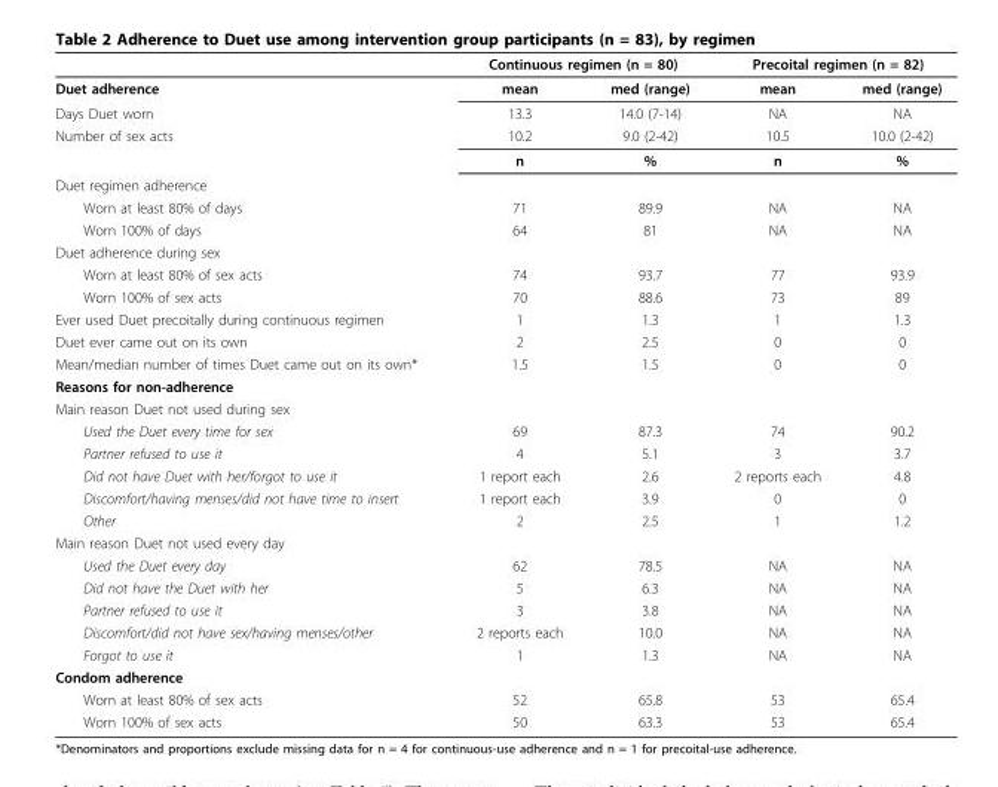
<table><thead><tr><td rowspan="2">Duet adherence</td><td colspan="2">Continuous regimen (n = 80)</td><td colspan="2">Precoital regimen (n = 82)</td></tr><tr><td>mean</td><td>med (range)</td><td>mean</td><td>med (range)</td></tr></thead><tbody><tr><td>Days Duet worn</td><td>13.3</td><td>14.0 (7-14)</td><td>NA</td><td>NA</td></tr><tr><td rowspan="2">Number of sex acts</td><td>10.2</td><td>9.0 (2-42)</td><td>10.5</td><td>10.0 (2-42)</td></tr><tr><td>n</td><td>%</td><td>n</td><td>%</td></tr><tr><td colspan="5">Duet regimen adherence</td></tr><tr><td>Worn at least 80% of days</td><td>71</td><td>89.9</td><td>NA</td><td>NA</td></tr><tr><td>Worn 100% of days</td><td>64</td><td>81</td><td>NA</td><td>NA</td></tr><tr><td colspan="5">Duet adherence during sex</td></tr><tr><td>Worn at least 80% of sex acts</td><td>74</td><td>93.7</td><td>77</td><td>93.9</td></tr><tr><td>Worn 100% of sex acts</td><td>70</td><td>88.6</td><td>73</td><td>89</td></tr><tr><td>Ever used Duet precoitally during continuous regimen</td><td>1</td><td>1.3</td><td>1</td><td>1.3</td></tr><tr><td>Duet ever came out on its own</td><td>2</td><td>2.5</td><td>0</td><td>0</td></tr><tr><td>Mean/median number of times Duet came out on its own*</td><td>1.5</td><td>1.5</td><td>0</td><td>0</td></tr><tr><td colspan="5">Reasons for non-adherence</td></tr><tr><td colspan="5">Main reason Duet not used during sex</td></tr><tr><td>Used the Duet every time for sex</td><td>69</td><td>87.3</td><td>74</td><td>90.2</td></tr><tr><td>Partner refused to use it</td><td>4</td><td>5.1</td><td>3</td><td>3.7</td></tr><tr><td>Did not have Duet with her/forgot to use it</td><td>1 report each</td><td>2.6</td><td>2 reports each</td><td>4.8</td></tr><tr><td>Discomfort/having menses/did not have time to insert</td><td>1 report each</td><td>3.9</td><td>0</td><td>0</td></tr><tr><td>Other</td><td>2</td><td>2.5</td><td>1</td><td>1.2</td></tr><tr><td colspan="5">Main reason Duet not used every day</td></tr><tr><td>Used the Duet every day</td><td>62</td><td>78.5</td><td>NA</td><td>NA</td></tr><tr><td>Did not have the Duet with her</td><td>5</td><td>6.3</td><td>NA</td><td>NA</td></tr><tr><td>Partner refused to use it</td><td>3</td><td>3.8</td><td>NA</td><td>NA</td></tr><tr><td>Discomfort/did not have sex/having menses/other</td><td>2 reports each</td><td>10.0</td><td>NA</td><td>NA</td></tr><tr><td>Forgot to use it</td><td>1</td><td>1.3</td><td>NA</td><td>NA</td></tr><tr><td colspan="5">Condom adherence</td></tr><tr><td>Worn at least 80% of sex acts</td><td>52</td><td>65.8</td><td>53</td><td>65.4</td></tr><tr><td>Worn 100% of sex acts</td><td>50</td><td>63.3</td><td>53</td><td>65.4</td></tr></tbody></table>